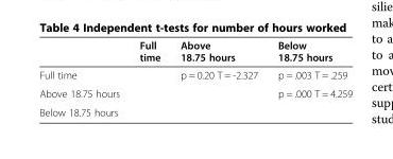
<table><thead><tr><td></td><td>Full time</td><td>Above 18.75 hours</td><td>Below 18.75 hours</td></tr></thead><tbody><tr><td>Full time</td><td></td><td>p = 0.20 T = -2.327</td><td>p = .003 T = .259</td></tr><tr><td>Above 18.75 hours</td><td></td><td></td><td>p = .000 T = 4.259</td></tr><tr><td>Below 18.75 hours</td><td></td><td></td><td></td></tr></tbody></table>